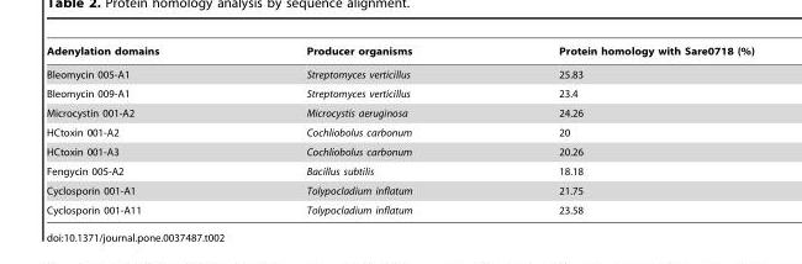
<table><thead><tr><td>Adenylation domains</td><td>Producer organisms</td><td>Protein homology with Sare0718 (%)</td></tr></thead><tbody><tr><td>Bleomycin 005-A1</td><td>Streptomyces verticillus</td><td>25.83</td></tr><tr><td>Bleomycin 009-A1</td><td>Streptomyces verticillus</td><td>23.4</td></tr><tr><td>Microcystin 001-A2</td><td>Microcystis aeruginosa</td><td>24.26</td></tr><tr><td>HCtoxin 001-A2</td><td>Cochliobolus carbonum</td><td>20</td></tr><tr><td>HCtoxin 001-A3</td><td>Cochliobolus carbonum</td><td>20.26</td></tr><tr><td>Fengycin 005-A2</td><td>Bacillus subtilis</td><td>18.18</td></tr><tr><td>Cyclosporin 001-A1</td><td>Tolypocladium inflatum</td><td>21.75</td></tr><tr><td>Cyclosporin 001-A11</td><td>Tolypocladium inflatum</td><td>23.58</td></tr></tbody></table>